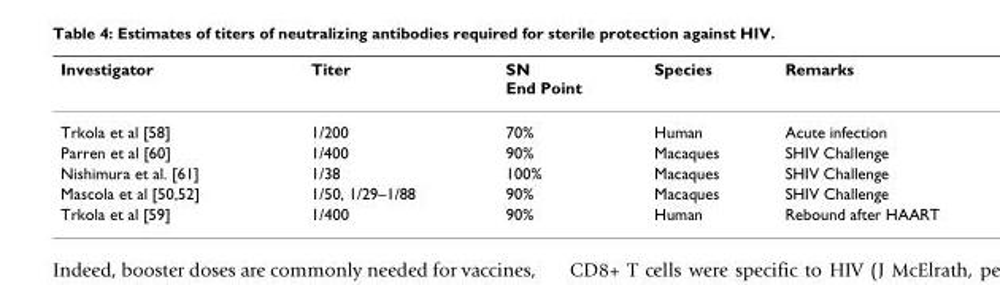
<table><thead><tr><td>Investigator</td><td>Titer</td><td>SN End Point</td><td>Species</td><td>Remarks</td></tr></thead><tbody><tr><td>Trkola et al [58]</td><td>1/200</td><td>70%</td><td>Human</td><td>Acute infection</td></tr><tr><td>Parren et al [60]</td><td>1/400</td><td>90%</td><td>Macaques</td><td>SHIV Challenge</td></tr><tr><td>Nishimura et al. [61]</td><td>1/38</td><td>100%</td><td>Macaques</td><td>SHIV Challenge</td></tr><tr><td>Mascola et al [50,52]</td><td>1/50, 1/29–1/88</td><td>90%</td><td>Macaques</td><td>SHIV Challenge</td></tr><tr><td>Trkola et al [59]</td><td>1/400</td><td>90%</td><td>Human</td><td>Rebound after HAART</td></tr></tbody></table>